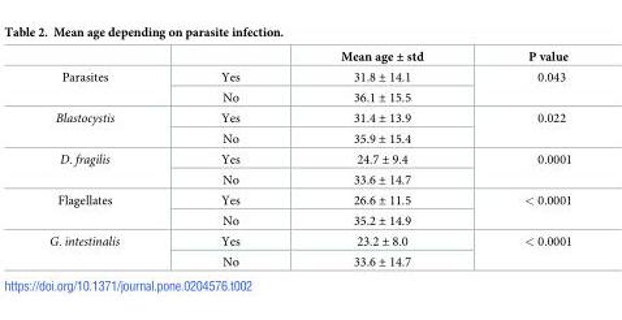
<table><thead><tr><td></td><td></td><td>Mean age ± std</td><td>P value</td></tr></thead><tbody><tr><td rowspan="2">Parasites</td><td>Yes</td><td>31.8 ± 14.1</td><td rowspan="2">0.043</td></tr><tr><td>No</td><td>36.1 ± 15.5</td></tr><tr><td rowspan="2">Blastocystis</td><td>Yes</td><td>31.4 ± 13.9</td><td rowspan="2">0.022</td></tr><tr><td>No</td><td>35.9 ± 15.4</td></tr><tr><td rowspan="2">D. fragilis</td><td>Yes</td><td>24.7 ± 9.4</td><td rowspan="2">0.0001</td></tr><tr><td>No</td><td>33.6 ± 14.7</td></tr><tr><td rowspan="2">Flagellates</td><td>Yes</td><td>26.6 ± 11.5</td><td rowspan="2">&lt; 0.0001</td></tr><tr><td>No</td><td>35.2 ± 14.9</td></tr><tr><td rowspan="2">G. intestinalis</td><td>Yes</td><td>23.2 ± 8.0</td><td rowspan="2">&lt; 0.0001</td></tr><tr><td>No</td><td>33.6 ± 14.7</td></tr></tbody></table>